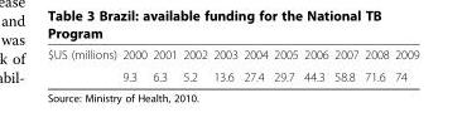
<table><tbody><tr><td rowspan="2">$US (millions)</td><td>2000</td><td>2001</td><td>2002</td><td>2003</td><td>2004</td><td>2005</td><td>2006</td><td>2007</td><td>2008</td><td>2009</td></tr><tr><td>9.3</td><td>6.3</td><td>5.2</td><td>13.6</td><td>27.4</td><td>29.7</td><td>44.3</td><td>58.8</td><td>71.6</td><td>74</td></tr></tbody></table>